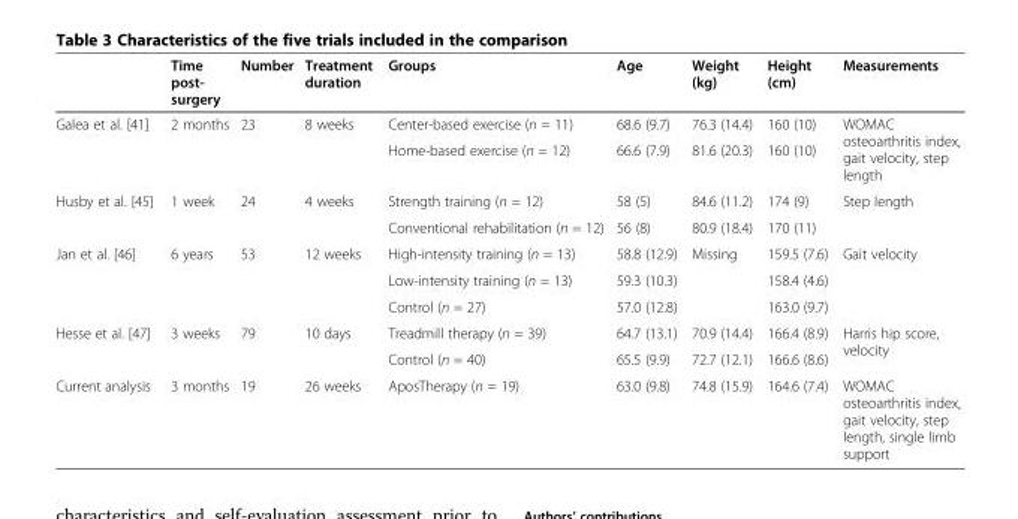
<table><thead><tr><td></td><td>Time post- surgery</td><td>Number</td><td>Treatment duration</td><td>Groups</td><td>Age</td><td>Weight (kg)</td><td>Height (cm)</td><td>Measurements</td></tr></thead><tbody><tr><td rowspan="2">Galea et al. [41]</td><td rowspan="2">2 months</td><td rowspan="2">23</td><td rowspan="2">8 weeks</td><td>Center-based exercise (n = 11)</td><td>68.6 (9.7)</td><td>76.3 (14.4)</td><td>160 (10)</td><td rowspan="2">WOMAC osteoarthritis index, gait velocity, step length</td></tr><tr><td>Home-based exercise (n = 12)</td><td>66.6 (7.9)</td><td>81.6 (20.3)</td><td>160 (10)</td></tr><tr><td rowspan="2">Husby et al. [45]</td><td rowspan="2">1 week</td><td rowspan="2">24</td><td rowspan="2">4 weeks</td><td>Strength training (n = 12)</td><td>58 (5)</td><td>84.6 (11.2)</td><td>174 (9)</td><td rowspan="2">Step length</td></tr><tr><td>Conventional rehabilitation (n = 12)</td><td>56 (8)</td><td>80.9 (18.4)</td><td>170 (11)</td></tr><tr><td rowspan="3">Jan et al. [46]</td><td rowspan="3">6 years</td><td rowspan="3">53</td><td rowspan="3">12 weeks</td><td>High-intensity training (n = 13)</td><td>58.8 (12.9)</td><td rowspan="3">Missing</td><td>159.5 (7.6)</td><td rowspan="3">Gait velocity</td></tr><tr><td>Low-intensity training (n = 13)</td><td>59.3 (10.3)</td><td>158.4 (4.6)</td></tr><tr><td>Control (n = 27)</td><td>57.0 (12.8)</td><td>163.0 (9.7)</td></tr><tr><td rowspan="2">Hesse et al. [47]</td><td rowspan="2">3 weeks</td><td rowspan="2">79</td><td rowspan="2">10 days</td><td>Treadmill therapy (n = 39)</td><td>64.7 (13.1)</td><td>70.9 (14.4)</td><td>166.4 (8.9)</td><td rowspan="2">Harris hip score, velocity</td></tr><tr><td>Control (n = 40)</td><td>65.5 (9.9)</td><td>72.7 (12.1)</td><td>166.6 (8.6)</td></tr><tr><td>Current analysis</td><td>3 months</td><td>19</td><td>26 weeks</td><td>AposTherapy (n = 19)</td><td>63.0 (9.8)</td><td>74.8 (15.9)</td><td>164.6 (7.4)</td><td>WOMAC osteoarthritis index, gait velocity, step length, single limb support</td></tr></tbody></table>